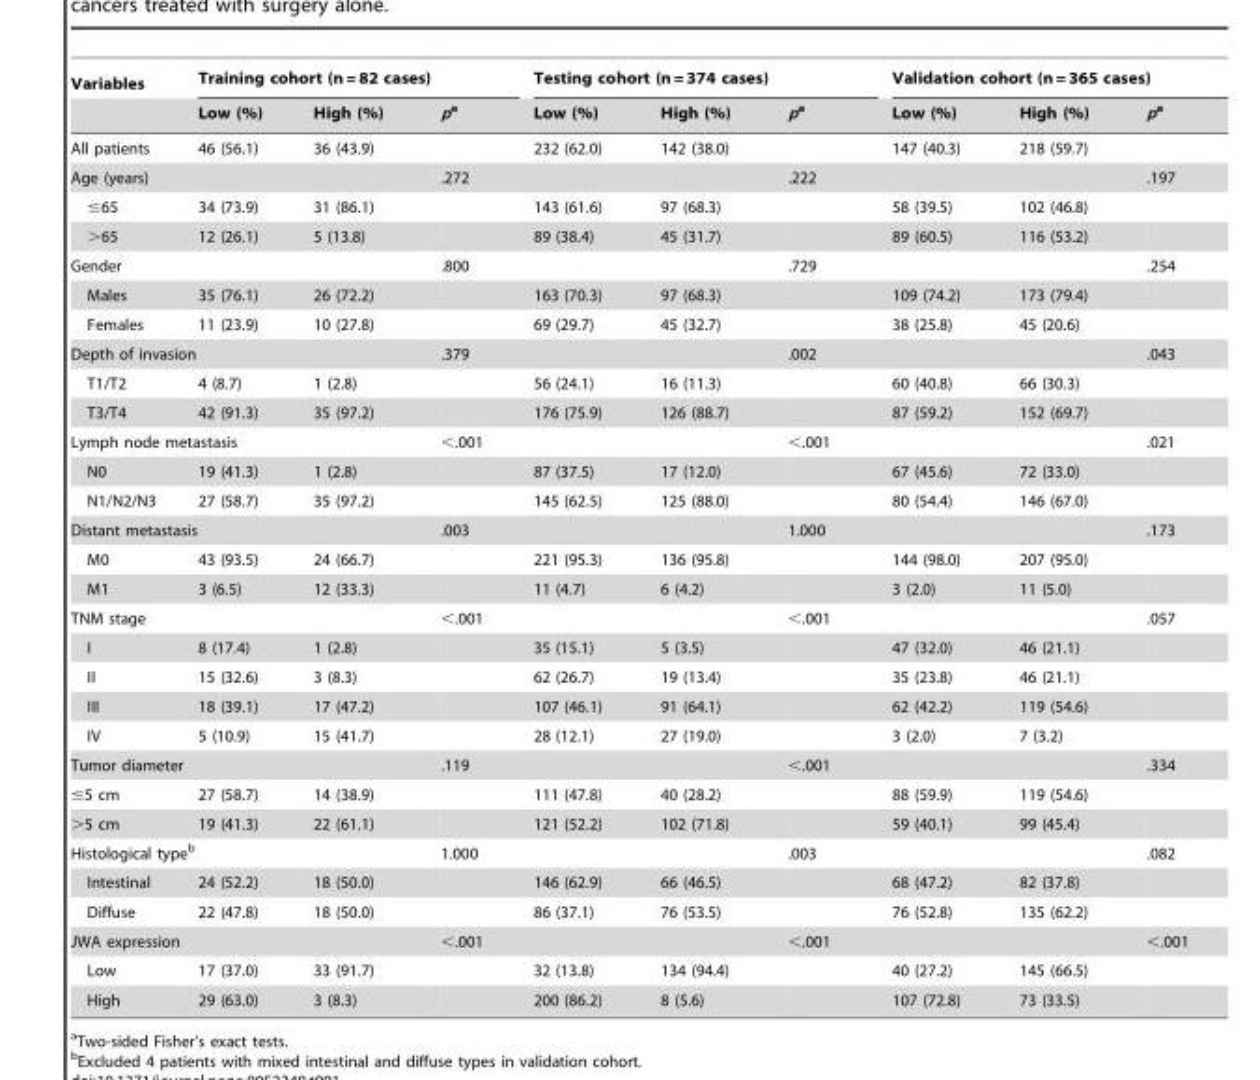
<table><thead><tr><td rowspan="2">Variables</td><td colspan="3">Training cohort (n = 82 cases)</td><td colspan="3">Testing cohort (n = 374 cases)</td><td colspan="3">Validation cohort (n = 365 cases)</td></tr><tr><td>Low (%)</td><td>High (%)</td><td>pa</td><td>Low (%)</td><td>High (%)</td><td>pa</td><td>Low (%)</td><td>High (%)</td><td>pa</td></tr></thead><tbody><tr><td>All patients</td><td>46 (56.1)</td><td>36 (43.9)</td><td></td><td>232 (62.0)</td><td>142 (38.0)</td><td></td><td>147 (40.3)</td><td>218 (59.7)</td><td></td></tr><tr><td colspan="2">Age (years)</td><td></td><td>.272</td><td></td><td></td><td>.222</td><td></td><td></td><td>.197</td></tr><tr><td>≤65</td><td>34 (73.9)</td><td>31 (86.1)</td><td></td><td>143 (61.6)</td><td>97 (68.3)</td><td></td><td>58 (39.5)</td><td>102 (46.8)</td><td></td></tr><tr><td>&gt;65</td><td>12 (26.1)</td><td>5 (13.8)</td><td></td><td>89 (38.4)</td><td>45 (31.7)</td><td></td><td>89 (60.5)</td><td>116 (53.2)</td><td></td></tr><tr><td colspan="2">Gender</td><td></td><td>.800</td><td></td><td></td><td>.729</td><td></td><td></td><td>.254</td></tr><tr><td>Males</td><td>35 (76.1)</td><td>26 (72.2)</td><td></td><td>163 (70.3)</td><td>97 (68.3)</td><td></td><td>109 (74.2)</td><td>173 (79.4)</td><td></td></tr><tr><td>Females</td><td>11 (23.9)</td><td>10 (27.8)</td><td></td><td>69 (29.7)</td><td>45 (32.7)</td><td></td><td>38 (25.8)</td><td>45 (20.6)</td><td></td></tr><tr><td colspan="2">Depth of invasion</td><td></td><td>.379</td><td></td><td></td><td>.002</td><td></td><td></td><td>.043</td></tr><tr><td>T1/T2</td><td>4 (8.7)</td><td>1 (2.8)</td><td></td><td>56 (24.1)</td><td>16 (11.3)</td><td></td><td>60 (40.8)</td><td>66 (30.3)</td><td></td></tr><tr><td>T3/T4</td><td>42 (91.3)</td><td>35 (97.2)</td><td></td><td>176 (75.9)</td><td>126 (88.7)</td><td></td><td>87 (59.2)</td><td>152 (69.7)</td><td></td></tr><tr><td colspan="2">Lymph node metastasis</td><td></td><td>&lt;.001</td><td></td><td></td><td>&lt;.001</td><td></td><td></td><td>.021</td></tr><tr><td>N0</td><td>19 (41.3)</td><td>1 (2.8)</td><td></td><td>87 (37.5)</td><td>17 (12.0)</td><td></td><td>67 (45.6)</td><td>72 (33.0)</td><td></td></tr><tr><td>N1/N2/N3</td><td>27 (58.7)</td><td>35 (97.2)</td><td></td><td>145 (62.5)</td><td>125 (88.0)</td><td></td><td>80 (54.4)</td><td>146 (67.0)</td><td></td></tr><tr><td colspan="2">Distant metastasis</td><td></td><td>.003</td><td></td><td></td><td>1.000</td><td></td><td></td><td>.173</td></tr><tr><td>M0</td><td>43 (93.5)</td><td>24 (66.7)</td><td></td><td>221 (95.3)</td><td>136 (95.8)</td><td></td><td>144 (98.0)</td><td>207 (95.0)</td><td></td></tr><tr><td>M1</td><td>3 (6.5)</td><td>12 (33.3)</td><td></td><td>11 (4.7)</td><td>6 (4.2)</td><td></td><td>3 (2.0)</td><td>11 (5.0)</td><td></td></tr><tr><td colspan="2">TNM stage</td><td></td><td>&lt;.001</td><td></td><td></td><td>&lt;.001</td><td></td><td></td><td>.057</td></tr><tr><td>I</td><td>8 (17.4)</td><td>1 (2.8)</td><td></td><td>35 (15.1)</td><td>5 (3.5)</td><td></td><td>47 (32.0)</td><td>46 (21.1)</td><td></td></tr><tr><td>II</td><td>15 (32.6)</td><td>3 (8.3)</td><td></td><td>62 (26.7)</td><td>19 (13.4)</td><td></td><td>35 (23.8)</td><td>46 (21.1)</td><td></td></tr><tr><td>III</td><td>18 (39.1)</td><td>17 (47.2)</td><td></td><td>107 (46.1)</td><td>91 (64.1)</td><td></td><td>62 (42.2)</td><td>119 (54.6)</td><td></td></tr><tr><td>IV</td><td>5 (10.9)</td><td>15 (41.7)</td><td></td><td>28 (12.1)</td><td>27 (19.0)</td><td></td><td>3 (2.0)</td><td>7 (3.2)</td><td></td></tr><tr><td colspan="2">Tumor diameter</td><td></td><td>.119</td><td></td><td></td><td>&lt;.001</td><td></td><td></td><td>.334</td></tr><tr><td>≤5 cm</td><td>27 (58.7)</td><td>14 (38.9)</td><td></td><td>111 (47.8)</td><td>40 (28.2)</td><td></td><td>88 (59.9)</td><td>119 (54.6)</td><td></td></tr><tr><td>&gt;5 cm</td><td>19 (41.3)</td><td>22 (61.1)</td><td></td><td>121 (52.2)</td><td>102 (71.8)</td><td></td><td>59 (40.1)</td><td>99 (45.4)</td><td></td></tr><tr><td colspan="2">Histological type<sup>b</sup></td><td></td><td>1.000</td><td></td><td></td><td>.003</td><td></td><td></td><td>.082</td></tr><tr><td>Intestinal</td><td>24 (52.2)</td><td>18 (50.0)</td><td></td><td>146 (62.9)</td><td>66 (46.5)</td><td></td><td>68 (47.2)</td><td>82 (37.8)</td><td></td></tr><tr><td>Diffuse</td><td>22 (47.8)</td><td>18 (50.0)</td><td></td><td>86 (37.1)</td><td>76 (53.5)</td><td></td><td>76 (52.8)</td><td>135 (62.2)</td><td></td></tr><tr><td colspan="2">JWA expression</td><td></td><td>&lt;.001</td><td></td><td></td><td>&lt;.001</td><td></td><td></td><td>&lt;.001</td></tr><tr><td>Low</td><td>17 (37.0)</td><td>33 (91.7)</td><td></td><td>32 (13.8)</td><td>134 (94.4)</td><td></td><td>40 (27.2)</td><td>145 (66.5)</td><td></td></tr><tr><td>High</td><td>29 (63.0)</td><td>3 (8.3)</td><td></td><td>200 (86.2)</td><td>8 (5.6)</td><td></td><td>107 (72.8)</td><td>73 (33.5)</td><td></td></tr></tbody></table>